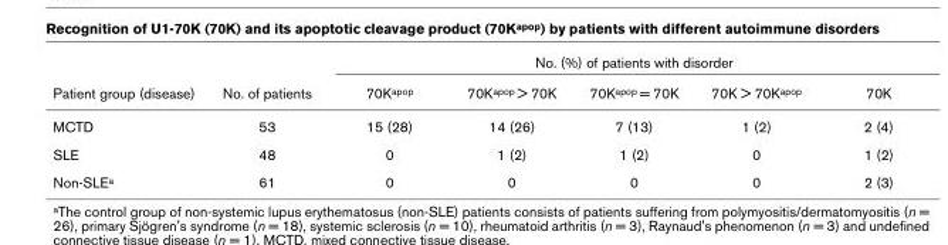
<table><thead><tr><td rowspan="2">Patient group (disease)</td><td rowspan="2">No. of patients</td><td colspan="5">No. (%) of patients with disorder</td></tr><tr><td>70Kapop</td><td>70Kapop &gt; 70K</td><td>70Kapop = 70K</td><td>70K &gt; 70Kapop</td><td>70K</td></tr></thead><tbody><tr><td>MCTD</td><td>53</td><td>15 (28)</td><td>14 (26)</td><td>7 (13)</td><td>1 (2)</td><td>2 (4)</td></tr><tr><td>SLE</td><td>48</td><td>0</td><td>1 (2)</td><td>1 (2)</td><td>0</td><td>1 (2)</td></tr><tr><td>Non-SLEa</td><td>61</td><td>0</td><td>0</td><td>0</td><td>0</td><td>2 (3)</td></tr></tbody></table>